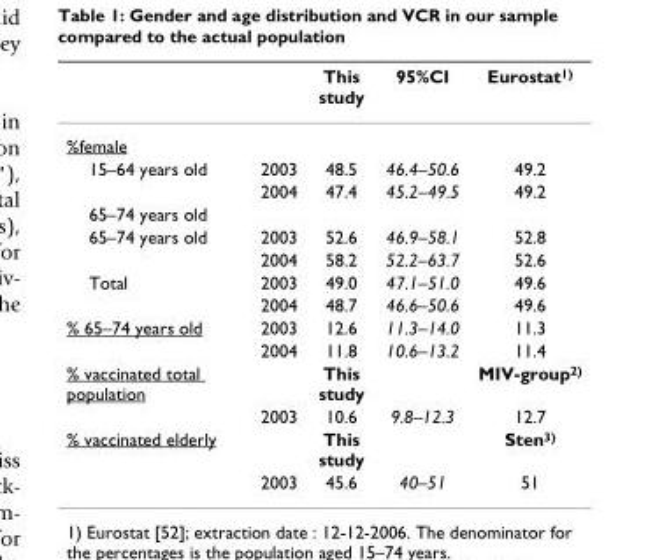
<table><thead><tr><td></td><td></td><td>This study</td><td>95%CI</td><td>Eurostat<sup>1)</sup></td></tr></thead><tbody><tr><td colspan="5">%female</td></tr><tr><td rowspan="2">15–64 years old</td><td>2003</td><td>48.5</td><td>46.4–50.6</td><td>49.2</td></tr><tr><td>2004</td><td>47.4</td><td>45.2–49.5</td><td>49.2</td></tr><tr><td colspan="5">65–74 years old</td></tr><tr><td rowspan="2">65–74 years old</td><td>2003</td><td>52.6</td><td>46.9–58.1</td><td>52.8</td></tr><tr><td>2004</td><td>58.2</td><td>52.2–63.7</td><td>52.6</td></tr><tr><td rowspan="2">Total</td><td>2003</td><td>49.0</td><td>47.1–51.0</td><td>49.6</td></tr><tr><td>2004</td><td>48.7</td><td>46.6–50.6</td><td>49.6</td></tr><tr><td rowspan="2">% 65–74 years old</td><td>2003</td><td>12.6</td><td>11.3–14.0</td><td>11.3</td></tr><tr><td>2004</td><td>11.8</td><td>10.6–13.2</td><td>11.4</td></tr><tr><td rowspan="2">% vaccinated total population</td><td></td><td>This study</td><td></td><td>MIV-group<sup>2)</sup></td></tr><tr><td>2003</td><td>10.6</td><td>9.8–12.3</td><td>12.7</td></tr><tr><td rowspan="2">% vaccinated elderly</td><td></td><td>This study</td><td></td><td>Sten<sup>3)</sup></td></tr><tr><td>2003</td><td>45.6</td><td>40–51</td><td>51</td></tr></tbody></table>